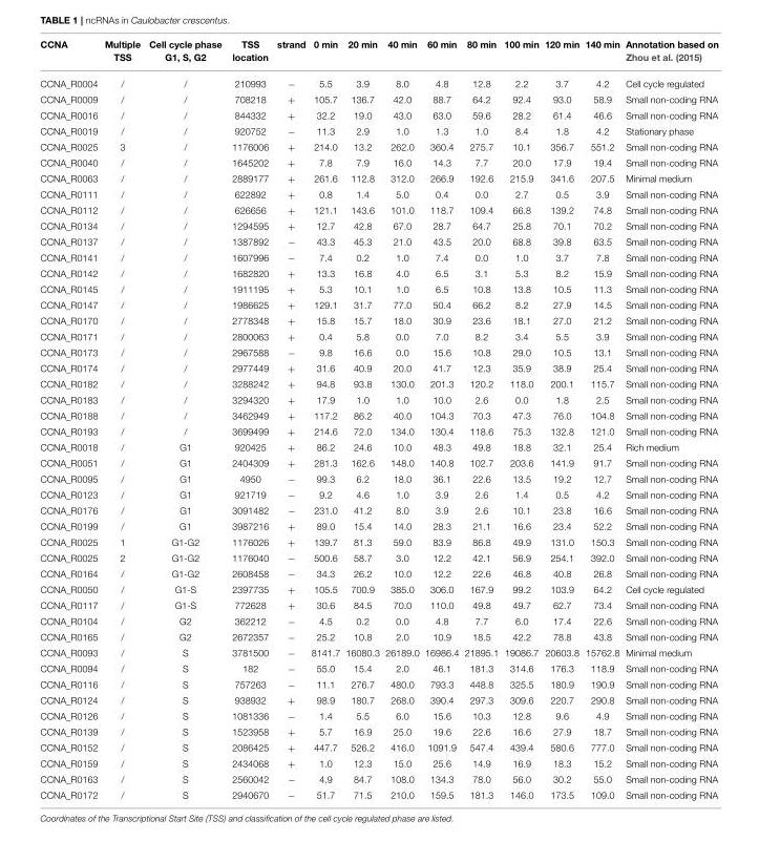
<table><thead><tr><td>CCNA</td><td>Multiple TSS</td><td>Cell cycle phase G1, S, G2</td><td>TSS location</td><td>strand</td><td>0 min</td><td>20 min</td><td>40 min</td><td>60 min</td><td>80 min</td><td>100 min</td><td>120 min</td><td>140 min</td><td>Annotation based on Zhou et al. (2015)</td></tr></thead><tbody><tr><td>CCNA_R0004</td><td>/</td><td>/</td><td>210993</td><td>−</td><td>5.5</td><td>3.9</td><td>8.0</td><td>4.8</td><td>12.8</td><td>2.2</td><td>3.7</td><td>4.2</td><td>Cell cycle regulated</td></tr><tr><td>CCNA_R0009</td><td>/</td><td>/</td><td>708218</td><td>+</td><td>105.7</td><td>136.7</td><td>42.0</td><td>88.7</td><td>64.2</td><td>92.4</td><td>93.0</td><td>58.9</td><td>Small non-coding RNA</td></tr><tr><td>CCNA_R0016</td><td>/</td><td>/</td><td>844332</td><td>+</td><td>32.2</td><td>19.0</td><td>43.0</td><td>63.0</td><td>59.6</td><td>28.2</td><td>61.4</td><td>46.6</td><td>Small non-coding RNA</td></tr><tr><td>CCNA_R0019</td><td>/</td><td>/</td><td>920752</td><td>−</td><td>11.3</td><td>2.9</td><td>1.0</td><td>1.3</td><td>1.0</td><td>8.4</td><td>1.8</td><td>4.2</td><td>Stationary phase</td></tr><tr><td>CCNA_R0025</td><td>3</td><td>/</td><td>1176006</td><td>+</td><td>214.0</td><td>13.2</td><td>262.0</td><td>360.4</td><td>275.7</td><td>10.1</td><td>356.7</td><td>551.2</td><td>Small non-coding RNA</td></tr><tr><td>CCNA_R0040</td><td>/</td><td>/</td><td>1645202</td><td>+</td><td>7.8</td><td>7.9</td><td>16.0</td><td>14.3</td><td>7.7</td><td>20.0</td><td>17.9</td><td>19.4</td><td>Small non-coding RNA</td></tr><tr><td>CCNA_R0063</td><td>/</td><td>/</td><td>2889177</td><td>+</td><td>261.6</td><td>112.8</td><td>312.0</td><td>266.9</td><td>192.6</td><td>215.9</td><td>341.6</td><td>207.5</td><td>Minimal medium</td></tr><tr><td>CCNA_R0111</td><td>/</td><td>/</td><td>622892</td><td>+</td><td>0.8</td><td>1.4</td><td>5.0</td><td>0.4</td><td>0.0</td><td>2.7</td><td>0.5</td><td>3.9</td><td>Small non-coding RNA</td></tr><tr><td>CCNA_R0112</td><td>/</td><td>/</td><td>626656</td><td>+</td><td>121.1</td><td>143.6</td><td>101.0</td><td>118.7</td><td>109.4</td><td>66.8</td><td>139.2</td><td>74.8</td><td>Small non-coding RNA</td></tr><tr><td>CCNA_R0134</td><td>/</td><td>/</td><td>1294595</td><td>+</td><td>12.7</td><td>42.8</td><td>67.0</td><td>28.7</td><td>64.7</td><td>25.8</td><td>70.1</td><td>70.2</td><td>Small non-coding RNA</td></tr><tr><td>CCNA_R0137</td><td>/</td><td>/</td><td>1387892</td><td>−</td><td>43.3</td><td>45.3</td><td>21.0</td><td>43.5</td><td>20.0</td><td>68.8</td><td>39.8</td><td>63.5</td><td>Small non-coding RNA</td></tr><tr><td>CCNA_R0141</td><td>/</td><td>/</td><td>1607996</td><td>−</td><td>7.4</td><td>0.2</td><td>1.0</td><td>7.4</td><td>0.0</td><td>1.0</td><td>3.7</td><td>7.8</td><td>Small non-coding RNA</td></tr><tr><td>CCNA_R0142</td><td>/</td><td>/</td><td>1682820</td><td>+</td><td>13.3</td><td>16.8</td><td>4.0</td><td>6.5</td><td>3.1</td><td>5.3</td><td>8.2</td><td>15.9</td><td>Small non-coding RNA</td></tr><tr><td>CCNA_R0145</td><td>/</td><td>/</td><td>1911195</td><td>+</td><td>5.3</td><td>10.1</td><td>1.0</td><td>6.5</td><td>10.8</td><td>13.8</td><td>10.5</td><td>11.3</td><td>Small non-coding RNA</td></tr><tr><td>CCNA_R0147</td><td>/</td><td>/</td><td>1986625</td><td>+</td><td>129.1</td><td>31.7</td><td>77.0</td><td>50.4</td><td>66.2</td><td>8.2</td><td>27.9</td><td>14.5</td><td>Small non-coding RNA</td></tr><tr><td>CCNA_R0170</td><td>/</td><td>/</td><td>2778348</td><td>+</td><td>15.8</td><td>15.7</td><td>18.0</td><td>30.9</td><td>23.6</td><td>18.1</td><td>27.0</td><td>21.2</td><td>Small non-coding RNA</td></tr><tr><td>CCNA_R0171</td><td>/</td><td>/</td><td>2800063</td><td>+</td><td>0.4</td><td>5.8</td><td>0.0</td><td>7.0</td><td>8.2</td><td>3.4</td><td>5.5</td><td>3.9</td><td>Small non-coding RNA</td></tr><tr><td>CCNA_R0173</td><td>/</td><td>/</td><td>2967588</td><td>−</td><td>9.8</td><td>16.6</td><td>0.0</td><td>15.6</td><td>10.8</td><td>29.0</td><td>10.5</td><td>13.1</td><td>Small non-coding RNA</td></tr><tr><td>CCNA_R0174</td><td>/</td><td>/</td><td>2977449</td><td>+</td><td>31.6</td><td>40.9</td><td>20.0</td><td>41.7</td><td>12.3</td><td>35.9</td><td>38.9</td><td>25.4</td><td>Small non-coding RNA</td></tr><tr><td>CCNA_R0182</td><td>/</td><td>/</td><td>3288242</td><td>+</td><td>94.8</td><td>93.8</td><td>130.0</td><td>201.3</td><td>120.2</td><td>118.0</td><td>200.1</td><td>115.7</td><td>Small non-coding RNA</td></tr><tr><td>CCNA_R0183</td><td>/</td><td>/</td><td>3294320</td><td>+</td><td>17.9</td><td>1.0</td><td>1.0</td><td>10.0</td><td>2.6</td><td>0.0</td><td>1.8</td><td>2.5</td><td>Small non-coding RNA</td></tr><tr><td>CCNA_R0188</td><td>/</td><td>/</td><td>3462949</td><td>+</td><td>117.2</td><td>86.2</td><td>40.0</td><td>104.3</td><td>70.3</td><td>47.3</td><td>76.0</td><td>104.8</td><td>Small non-coding RNA</td></tr><tr><td>CCNA_R0193</td><td>/</td><td>/</td><td>3699499</td><td>+</td><td>214.6</td><td>72.0</td><td>134.0</td><td>130.4</td><td>118.6</td><td>75.3</td><td>132.8</td><td>121.0</td><td>Small non-coding RNA</td></tr><tr><td>CCNA_R0018</td><td>/</td><td>G1</td><td>920425</td><td>+</td><td>86.2</td><td>24.6</td><td>10.0</td><td>48.3</td><td>49.8</td><td>18.8</td><td>32.1</td><td>25.4</td><td>Rich medium</td></tr><tr><td>CCNA_R0051</td><td>/</td><td>G1</td><td>2404309</td><td>+</td><td>281.3</td><td>162.6</td><td>148.0</td><td>140.8</td><td>102.7</td><td>203.6</td><td>141.9</td><td>91.7</td><td>Small non-coding RNA</td></tr><tr><td>CCNA_R0095</td><td>/</td><td>G1</td><td>4950</td><td>−</td><td>99.3</td><td>6.2</td><td>18.0</td><td>36.1</td><td>22.6</td><td>13.5</td><td>19.2</td><td>12.7</td><td>Small non-coding RNA</td></tr><tr><td>CCNA_R0123</td><td>/</td><td>G1</td><td>921719</td><td>−</td><td>9.2</td><td>4.6</td><td>1.0</td><td>3.9</td><td>2.6</td><td>1.4</td><td>0.5</td><td>4.2</td><td>Small non-coding RNA</td></tr><tr><td>CCNA_R0176</td><td>/</td><td>G1</td><td>3091482</td><td>−</td><td>231.0</td><td>41.2</td><td>8.0</td><td>3.9</td><td>2.6</td><td>10.1</td><td>23.8</td><td>16.6</td><td>Small non-coding RNA</td></tr><tr><td>CCNA_R0199</td><td>/</td><td>G1</td><td>3987216</td><td>+</td><td>89.0</td><td>15.4</td><td>14.0</td><td>28.3</td><td>21.1</td><td>16.6</td><td>23.4</td><td>52.2</td><td>Small non-coding RNA</td></tr><tr><td>CCNA_R0025</td><td>1</td><td>G1-G2</td><td>1176026</td><td>+</td><td>139.7</td><td>81.3</td><td>59.0</td><td>83.9</td><td>86.8</td><td>49.9</td><td>131.0</td><td>150.3</td><td>Small non-coding RNA</td></tr><tr><td>CCNA_R0025</td><td>2</td><td>G1-G2</td><td>1176040</td><td>−</td><td>500.6</td><td>58.7</td><td>3.0</td><td>12.2</td><td>42.1</td><td>56.9</td><td>254.1</td><td>392.0</td><td>Small non-coding RNA</td></tr><tr><td>CCNA_R0164</td><td>/</td><td>G1-G2</td><td>2608458</td><td>−</td><td>34.3</td><td>26.2</td><td>10.0</td><td>12.2</td><td>22.6</td><td>46.8</td><td>40.8</td><td>26.8</td><td>Small non-coding RNA</td></tr><tr><td>CCNA_R0050</td><td>/</td><td>G1-S</td><td>2397735</td><td>+</td><td>105.5</td><td>700.9</td><td>385.0</td><td>306.0</td><td>167.9</td><td>99.2</td><td>103.9</td><td>64.2</td><td>Cell cycle regulated</td></tr><tr><td>CCNA_R0117</td><td>/</td><td>G1-S</td><td>772628</td><td>+</td><td>30.6</td><td>84.5</td><td>70.0</td><td>110.0</td><td>49.8</td><td>49.7</td><td>62.7</td><td>73.4</td><td>Small non-coding RNA</td></tr><tr><td>CCNA_R0104</td><td>/</td><td>G2</td><td>362212</td><td>−</td><td>4.5</td><td>0.2</td><td>0.0</td><td>4.8</td><td>7.7</td><td>6.0</td><td>17.4</td><td>22.6</td><td>Small non-coding RNA</td></tr><tr><td>CCNA_R0165</td><td>/</td><td>G2</td><td>2672357</td><td>−</td><td>25.2</td><td>10.8</td><td>2.0</td><td>10.9</td><td>18.5</td><td>42.2</td><td>78.8</td><td>43.8</td><td>Small non-coding RNA</td></tr><tr><td>CCNA_R0093</td><td>/</td><td>S</td><td>3781500</td><td>−</td><td>8141.7</td><td>16080.3</td><td>26189.0</td><td>16986.4</td><td>21895.1</td><td>19086.7</td><td>20603.8</td><td>15762.8</td><td>Minimal medium</td></tr><tr><td>CCNA_R0094</td><td>/</td><td>S</td><td>182</td><td>−</td><td>55.0</td><td>15.4</td><td>2.0</td><td>46.1</td><td>181.3</td><td>314.6</td><td>176.3</td><td>118.9</td><td>Small non-coding RNA</td></tr><tr><td>CCNA_R0116</td><td>/</td><td>S</td><td>757263</td><td>−</td><td>11.1</td><td>276.7</td><td>480.0</td><td>793.3</td><td>448.8</td><td>325.5</td><td>180.9</td><td>190.9</td><td>Small non-coding RNA</td></tr><tr><td>CCNA_R0124</td><td>/</td><td>S</td><td>938932</td><td>+</td><td>98.9</td><td>180.7</td><td>268.0</td><td>390.4</td><td>297.3</td><td>309.6</td><td>220.7</td><td>290.8</td><td>Small non-coding RNA</td></tr><tr><td>CCNA_R0126</td><td>/</td><td>S</td><td>1081336</td><td>−</td><td>1.4</td><td>5.5</td><td>6.0</td><td>15.6</td><td>10.3</td><td>12.8</td><td>9.6</td><td>4.9</td><td>Small non-coding RNA</td></tr><tr><td>CCNA_R0139</td><td>/</td><td>S</td><td>1523958</td><td>+</td><td>5.7</td><td>16.9</td><td>25.0</td><td>19.6</td><td>22.6</td><td>16.6</td><td>27.9</td><td>18.7</td><td>Small non-coding RNA</td></tr><tr><td>CCNA_R0152</td><td>/</td><td>S</td><td>2086425</td><td>+</td><td>447.7</td><td>526.2</td><td>416.0</td><td>1091.9</td><td>547.4</td><td>439.4</td><td>580.6</td><td>777.0</td><td>Small non-coding RNA</td></tr><tr><td>CCNA_R0159</td><td>/</td><td>S</td><td>2434068</td><td>+</td><td>1.0</td><td>12.3</td><td>15.0</td><td>25.6</td><td>14.9</td><td>16.9</td><td>18.3</td><td>15.2</td><td>Small non-coding RNA</td></tr><tr><td>CCNA_R0163</td><td>/</td><td>S</td><td>2560042</td><td>−</td><td>4.9</td><td>84.7</td><td>108.0</td><td>134.3</td><td>78.0</td><td>56.0</td><td>30.2</td><td>55.0</td><td>Small non-coding RNA</td></tr><tr><td>CCNA_R0172</td><td>/</td><td>S</td><td>2940670</td><td>−</td><td>51.7</td><td>71.5</td><td>210.0</td><td>159.5</td><td>181.3</td><td>146.0</td><td>173.5</td><td>109.0</td><td>Small non-coding RNA</td></tr></tbody></table>